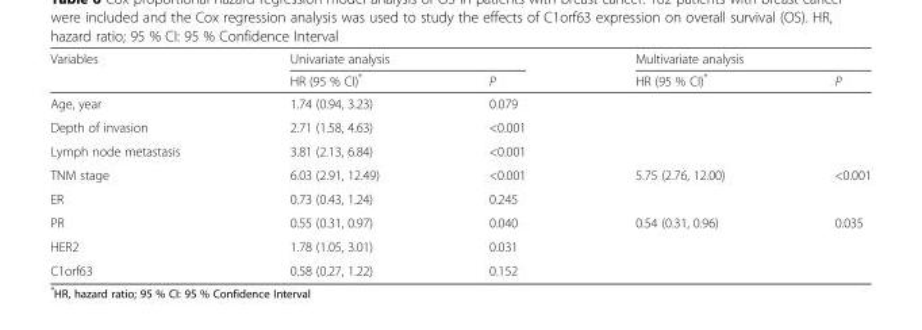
<table><thead><tr><td rowspan="2">Variables</td><td colspan="2">Univariate analysis</td><td colspan="2">Multivariate analysis</td></tr><tr><td>HR (95 % CI)*</td><td>P</td><td>HR (95 % CI)*</td><td>P</td></tr></thead><tbody><tr><td>Age, year</td><td>1.74 (0.94, 3.23)</td><td>0.079</td><td></td><td></td></tr><tr><td>Depth of invasion</td><td>2.71 (1.58, 4.63)</td><td>&lt;0.001</td><td></td><td></td></tr><tr><td>Lymph node metastasis</td><td>3.81 (2.13, 6.84)</td><td>&lt;0.001</td><td></td><td></td></tr><tr><td>TNM stage</td><td>6.03 (2.91, 12.49)</td><td>&lt;0.001</td><td>5.75 (2.76, 12.00)</td><td>&lt;0.001</td></tr><tr><td>ER</td><td>0.73 (0.43, 1.24)</td><td>0.245</td><td></td><td></td></tr><tr><td>PR</td><td>0.55 (0.31, 0.97)</td><td>0.040</td><td>0.54 (0.31, 0.96)</td><td>0.035</td></tr><tr><td>HER2</td><td>1.78 (1.05, 3.01)</td><td>0.031</td><td></td><td></td></tr><tr><td>C1orf63</td><td>0.58 (0.27, 1.22)</td><td>0.152</td><td></td><td></td></tr></tbody></table>